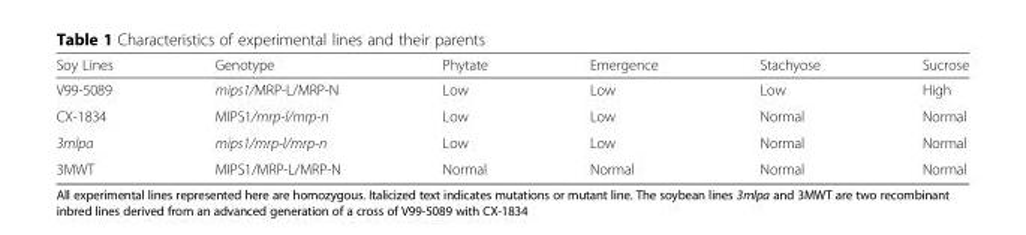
<table><thead><tr><td>Soy Lines</td><td>Genotype</td><td>Phytate</td><td>Emergence</td><td>Stachyose</td><td>Sucrose</td></tr></thead><tbody><tr><td>V99-5089</td><td>mips1/MRP-L/MRP-N</td><td>Low</td><td>Low</td><td>Low</td><td>High</td></tr><tr><td>CX-1834</td><td>MIPS1/mrp-l/mrp-n</td><td>Low</td><td>Low</td><td>Normal</td><td>Normal</td></tr><tr><td>3mlpa</td><td>mips1/mrp-l/mrp-n</td><td>Low</td><td>Low</td><td>Normal</td><td>Normal</td></tr><tr><td>3MWT</td><td>MIPS1/MRP-L/MRP-N</td><td>Normal</td><td>Normal</td><td>Normal</td><td>Normal</td></tr></tbody></table>